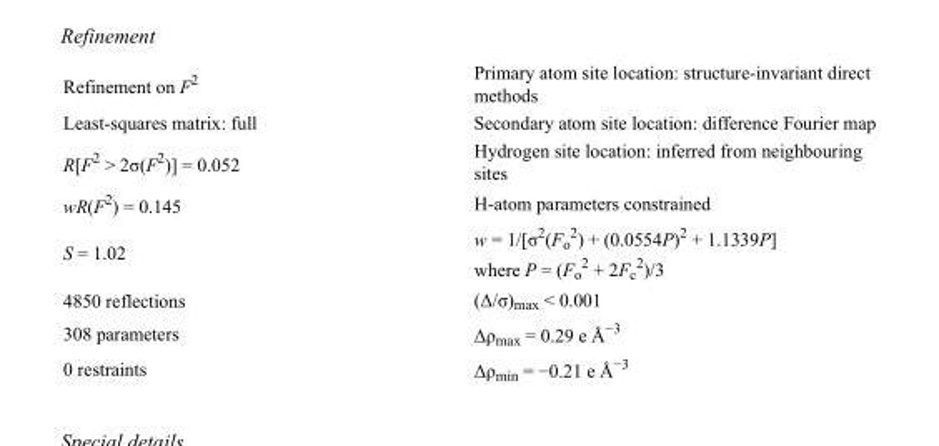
<table><tbody><tr><td>Refinement on F<sup>2</sup></td><td>Primary atom site location: structure-invariant direct methods</td></tr><tr><td>Least-squares matrix: full</td><td>Secondary atom site location: difference Fourier map</td></tr><tr><td>R[F<sup>2</sup> &gt; 2σ(F<sup>2</sup>)] = 0.052</td><td>Hydrogen site location: inferred from neighbouring sites</td></tr><tr><td>wR(F<sup>2</sup>) = 0.145</td><td>H-atom parameters constrained</td></tr><tr><td>S = 1.02</td><td>w = 1/[σ<sup>2</sup>(F<sub>o</sub> <sup>2</sup>) + (0.0554P)<sup>2</sup> + 1.1339P] where P = (F<sub>o</sub> <sup>2</sup> + 2F<sub>c</sub> <sup>2</sup>)/3</td></tr><tr><td>4850 reflections</td><td>(Δ/σ)<sub>max</sub> &lt; 0.001</td></tr><tr><td>308 parameters</td><td>Δρ<sub>max</sub> = 0.29 e Å<sup>−3</sup></td></tr><tr><td>0 restraints</td><td>Δρ<sub>min</sub> = −0.21 e Å<sup>−3</sup></td></tr></tbody></table>